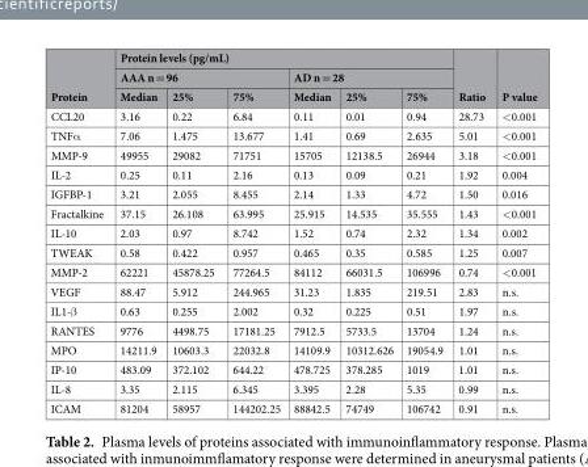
<table><thead><tr><td rowspan="3">Protein</td><td colspan="6">Protein levels (pg/mL)</td><td rowspan="3">Ratio</td><td rowspan="3">P value</td></tr><tr><td colspan="3">AAA n = 96</td><td colspan="3">AD n = 28</td></tr><tr><td>Median</td><td>25%</td><td>75%</td><td>Median</td><td>25%</td><td>75%</td></tr></thead><tbody><tr><td>CCL20</td><td>3.16</td><td>0.22</td><td>6.84</td><td>0.11</td><td>0.01</td><td>0.94</td><td>28.73</td><td>&lt;0.001</td></tr><tr><td>TNFα</td><td>7.06</td><td>1.475</td><td>13.677</td><td>1.41</td><td>0.69</td><td>2.635</td><td>5.01</td><td>&lt;0.001</td></tr><tr><td>MMP-9</td><td>49955</td><td>29082</td><td>71751</td><td>15705</td><td>12138.5</td><td>26944</td><td>3.18</td><td>&lt;0.001</td></tr><tr><td>IL-2</td><td>0.25</td><td>0.11</td><td>2.16</td><td>0.13</td><td>0.09</td><td>0.21</td><td>1.92</td><td>0.004</td></tr><tr><td>IGFBP-1</td><td>3.21</td><td>2.055</td><td>8.455</td><td>2.14</td><td>1.33</td><td>4.72</td><td>1.50</td><td>0.016</td></tr><tr><td>Fractalkine</td><td>37.15</td><td>26.108</td><td>63.995</td><td>25.915</td><td>14.535</td><td>35.555</td><td>1.43</td><td>&lt;0.001</td></tr><tr><td>IL-10</td><td>2.03</td><td>0.97</td><td>8.742</td><td>1.52</td><td>0.74</td><td>2.32</td><td>1.34</td><td>0.002</td></tr><tr><td>TWEAK</td><td>0.58</td><td>0.422</td><td>0.957</td><td>0.465</td><td>0.35</td><td>0.585</td><td>1.25</td><td>0.007</td></tr><tr><td>MMP-2</td><td>62221</td><td>45878.25</td><td>77264.5</td><td>84112</td><td>66031.5</td><td>106996</td><td>0.74</td><td>&lt;0.001</td></tr><tr><td>VEGF</td><td>88.47</td><td>5.912</td><td>244.965</td><td>31.23</td><td>1.835</td><td>219.51</td><td>2.83</td><td>n.s.</td></tr><tr><td>IL1-β</td><td>0.63</td><td>0.255</td><td>2.002</td><td>0.32</td><td>0.225</td><td>0.51</td><td>1.97</td><td>n.s.</td></tr><tr><td>RANTES</td><td>9776</td><td>4498.75</td><td>17181.25</td><td>7912.5</td><td>5733.5</td><td>13704</td><td>1.24</td><td>n.s.</td></tr><tr><td>MPO</td><td>14211.9</td><td>10603.3</td><td>22032.8</td><td>14109.9</td><td>10312.626</td><td>19054.9</td><td>1.01</td><td>n.s.</td></tr><tr><td>IP-10</td><td>483.09</td><td>372.102</td><td>644.22</td><td>478.725</td><td>378.285</td><td>1019</td><td>1.01</td><td>n.s.</td></tr><tr><td>IL-8</td><td>3.35</td><td>2.115</td><td>6.345</td><td>3.395</td><td>2.28</td><td>5.35</td><td>0.99</td><td>n.s.</td></tr><tr><td>ICAM</td><td>81204</td><td>58957</td><td>144202.25</td><td>88842.5</td><td>74749</td><td>106742</td><td>0.91</td><td>n.s.</td></tr></tbody></table>